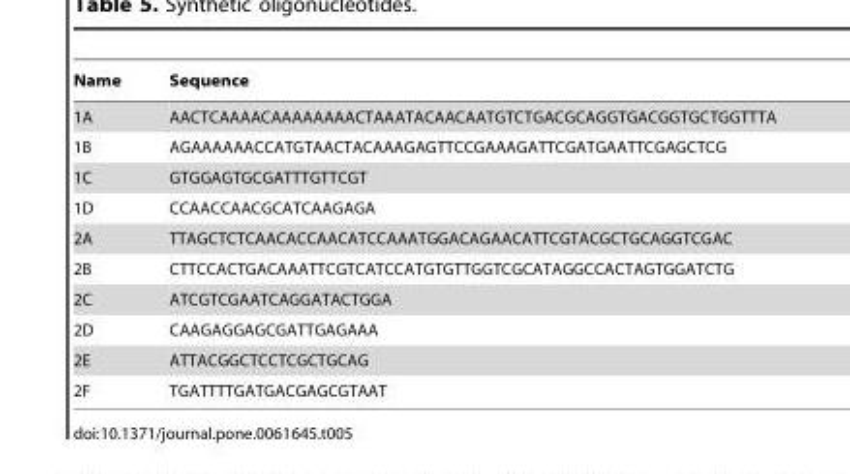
<table><thead><tr><td>Name</td><td>Sequence</td></tr></thead><tbody><tr><td>1A</td><td>AACTCAAAACAAAAAAAACTAAATACAACAATGTCTGACGCAGGTGACGGTGCTGGTTTA</td></tr><tr><td>1B</td><td>AGAAAAAACCATGTAACTACAAAGAGTTCCGAAAGATTCGATGAATTCGAGCTCG</td></tr><tr><td>1C</td><td>GTGGAGTGCGATTTGTTCGT</td></tr><tr><td>1D</td><td>CCAACCAACGCATCAAGAGA</td></tr><tr><td>2A</td><td>TTAGCTCTCAACACCAACATCCAAATGGACAGAACATTCGTACGCTGCAGGTCGAC</td></tr><tr><td>2B</td><td>CTTCCACTGACAAATTCGTCATCCATGTGTTGGTCGCATAGGCCACTAGTGGATCTG</td></tr><tr><td>2C</td><td>ATCGTCGAATCAGGATACTGGA</td></tr><tr><td>2D</td><td>CAAGAGGAGCGATTGAGAAA</td></tr><tr><td>2E</td><td>ATTACGGCTCCTCGCTGCAG</td></tr><tr><td>2F</td><td>TGATTTTGATGACGAGCGTAAT</td></tr></tbody></table>